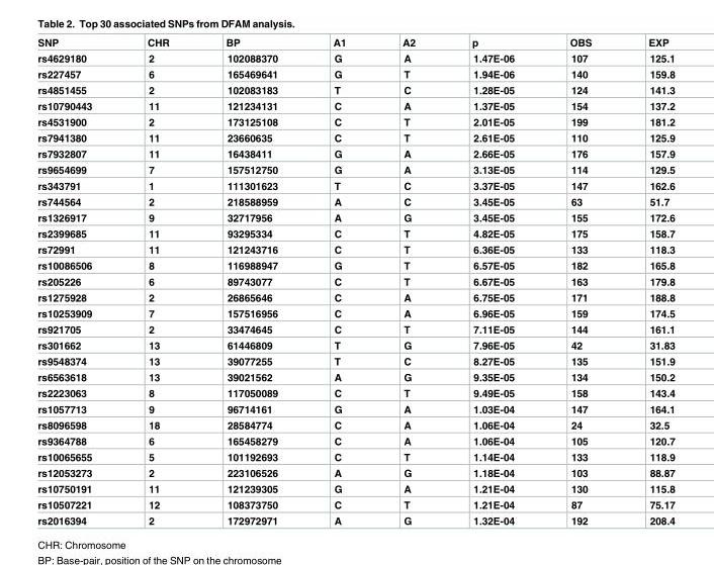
<table><thead><tr><td>SNP</td><td>CHR</td><td>BP</td><td>A1</td><td>A2</td><td>p</td><td>OBS</td><td>EXP</td></tr></thead><tbody><tr><td>rs4629180</td><td>2</td><td>102088370</td><td>G</td><td>A</td><td>1.47E-06</td><td>107</td><td>125.1</td></tr><tr><td>rs227457</td><td>6</td><td>165469641</td><td>G</td><td>T</td><td>1.94E-06</td><td>140</td><td>159.8</td></tr><tr><td>rs4851455</td><td>2</td><td>102083183</td><td>T</td><td>C</td><td>1.28E-05</td><td>124</td><td>141.3</td></tr><tr><td>rs10790443</td><td>11</td><td>121234131</td><td>C</td><td>A</td><td>1.37E-05</td><td>154</td><td>137.2</td></tr><tr><td>rs4531900</td><td>2</td><td>173125108</td><td>C</td><td>T</td><td>2.01E-05</td><td>199</td><td>181.2</td></tr><tr><td>rs7941380</td><td>11</td><td>23660635</td><td>C</td><td>T</td><td>2.61E-05</td><td>110</td><td>125.9</td></tr><tr><td>rs7932807</td><td>11</td><td>16438411</td><td>G</td><td>A</td><td>2.66E-05</td><td>176</td><td>157.9</td></tr><tr><td>rs9654699</td><td>7</td><td>157512750</td><td>G</td><td>A</td><td>3.13E-05</td><td>114</td><td>129.5</td></tr><tr><td>rs343791</td><td>1</td><td>111301623</td><td>T</td><td>C</td><td>3.37E-05</td><td>147</td><td>162.6</td></tr><tr><td>rs744564</td><td>2</td><td>218588959</td><td>A</td><td>C</td><td>3.45E-05</td><td>63</td><td>51.7</td></tr><tr><td>rs1326917</td><td>9</td><td>32717956</td><td>A</td><td>G</td><td>3.45E-05</td><td>155</td><td>172.6</td></tr><tr><td>rs2399685</td><td>11</td><td>93295334</td><td>C</td><td>T</td><td>4.82E-05</td><td>175</td><td>158.7</td></tr><tr><td>rs72991</td><td>11</td><td>121243716</td><td>C</td><td>T</td><td>6.36E-05</td><td>133</td><td>118.3</td></tr><tr><td>rs10086506</td><td>8</td><td>116988947</td><td>G</td><td>T</td><td>6.57E-05</td><td>182</td><td>165.8</td></tr><tr><td>rs205226</td><td>6</td><td>89743077</td><td>C</td><td>T</td><td>6.67E-05</td><td>163</td><td>179.8</td></tr><tr><td>rs1275928</td><td>2</td><td>26865646</td><td>C</td><td>A</td><td>6.75E-05</td><td>171</td><td>188.8</td></tr><tr><td>rs10253909</td><td>7</td><td>157516956</td><td>C</td><td>A</td><td>6.96E-05</td><td>159</td><td>174.5</td></tr><tr><td>rs921705</td><td>2</td><td>33474645</td><td>C</td><td>T</td><td>7.11E-05</td><td>144</td><td>161.1</td></tr><tr><td>rs301662</td><td>13</td><td>61446809</td><td>T</td><td>G</td><td>7.96E-05</td><td>42</td><td>31.83</td></tr><tr><td>rs9548374</td><td>13</td><td>39077255</td><td>T</td><td>C</td><td>8.27E-05</td><td>135</td><td>151.9</td></tr><tr><td>rs6563618</td><td>13</td><td>39021562</td><td>A</td><td>G</td><td>9.35E-05</td><td>134</td><td>150.2</td></tr><tr><td>rs2223063</td><td>8</td><td>117050089</td><td>C</td><td>T</td><td>9.49E-05</td><td>158</td><td>143.4</td></tr><tr><td>rs1057713</td><td>9</td><td>96714161</td><td>G</td><td>A</td><td>1.03E-04</td><td>147</td><td>164.1</td></tr><tr><td>rs8096598</td><td>18</td><td>28584774</td><td>C</td><td>A</td><td>1.06E-04</td><td>24</td><td>32.5</td></tr><tr><td>rs9364788</td><td>6</td><td>165458279</td><td>C</td><td>A</td><td>1.06E-04</td><td>105</td><td>120.7</td></tr><tr><td>rs10065655</td><td>5</td><td>101192693</td><td>C</td><td>T</td><td>1.14E-04</td><td>133</td><td>118.9</td></tr><tr><td>rs12053273</td><td>2</td><td>223106526</td><td>A</td><td>G</td><td>1.18E-04</td><td>103</td><td>88.87</td></tr><tr><td>rs10750191</td><td>11</td><td>121239305</td><td>G</td><td>A</td><td>1.21E-04</td><td>130</td><td>115.8</td></tr><tr><td>rs10507221</td><td>12</td><td>108373750</td><td>C</td><td>T</td><td>1.21E-04</td><td>87</td><td>75.17</td></tr><tr><td>rs2016394</td><td>2</td><td>172972971</td><td>A</td><td>G</td><td>1.32E-04</td><td>192</td><td>208.4</td></tr></tbody></table>